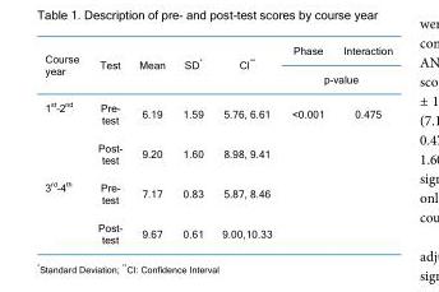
<table><thead><tr><td rowspan="2">Course year</td><td rowspan="2">Test</td><td rowspan="2">Mean</td><td rowspan="2">SD*</td><td rowspan="2">CI**</td><td>Phase</td><td>Interaction</td></tr><tr><td colspan="2">p-value</td></tr></thead><tbody><tr><td rowspan="2">1<sup>st</sup>–2<sup>nd</sup></td><td>Pre- test</td><td>6.19</td><td>1.59</td><td>5.76, 6.61</td><td>&lt;0.001</td><td>0.475</td></tr><tr><td>Post- test</td><td>9.20</td><td>1.60</td><td>8.98, 9.41</td><td></td><td></td></tr><tr><td rowspan="2">3<sup>rd</sup>–4<sup>th</sup></td><td>Pre- test</td><td>7.17</td><td>0.83</td><td>5.87, 8.46</td><td></td><td></td></tr><tr><td>Post- test</td><td>9.67</td><td>0.61</td><td>9.00,10.33</td><td></td><td></td></tr></tbody></table>